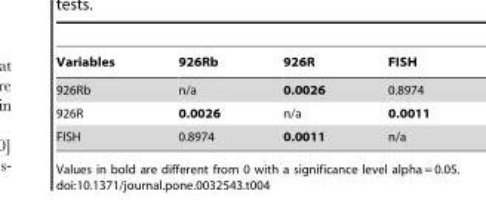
<table><thead><tr><td>Variables</td><td>926Rb</td><td>926R</td><td>FISH</td></tr></thead><tbody><tr><td>926Rb</td><td>n/a</td><td>0.0026</td><td>0.8974</td></tr><tr><td>926R</td><td>0.0026</td><td>n/a</td><td>0.0011</td></tr><tr><td>FISH</td><td>0.8974</td><td>0.0011</td><td>n/a</td></tr></tbody></table>